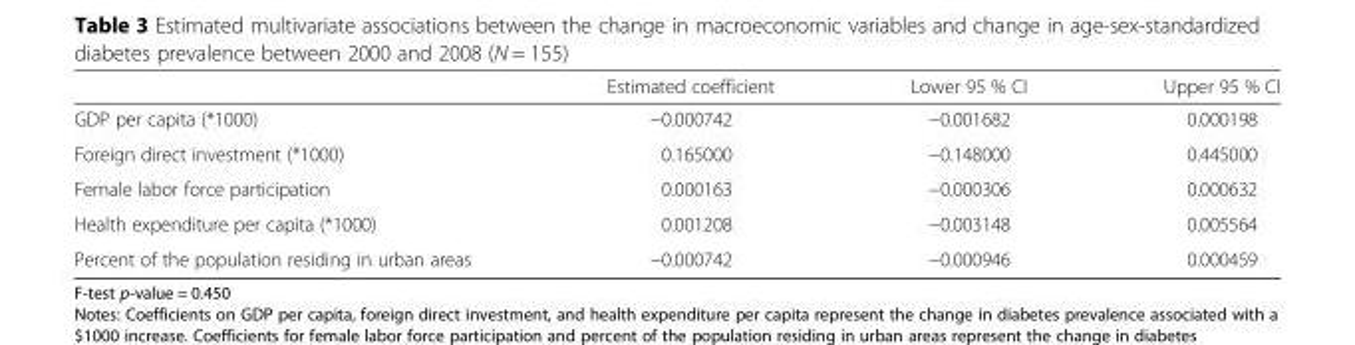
<table><thead><tr><td></td><td>Estimated coefficient</td><td>Lower 95 % CI</td><td>Upper 95 % CI</td></tr></thead><tbody><tr><td>GDP per capita (*1000)</td><td>−0.000742</td><td>−0.001682</td><td>0.000198</td></tr><tr><td>Foreign direct investment (*1000)</td><td>0.165000</td><td>−0.148000</td><td>0.445000</td></tr><tr><td>Female labor force participation</td><td>0.000163</td><td>−0.000306</td><td>0.000632</td></tr><tr><td>Health expenditure per capita (*1000)</td><td>0.001208</td><td>−0.003148</td><td>0.005564</td></tr><tr><td>Percent of the population residing in urban areas</td><td>−0.000742</td><td>−0.000946</td><td>0.000459</td></tr></tbody></table>